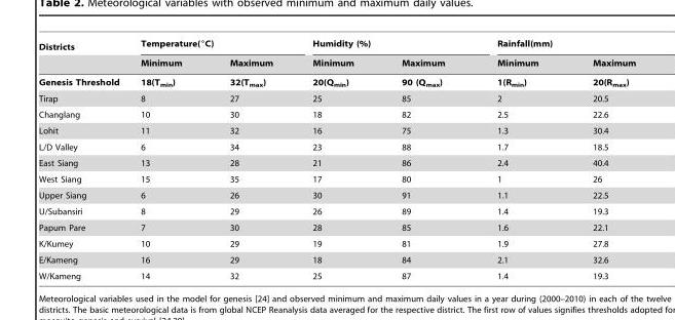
<table><thead><tr><td rowspan="2">Districts</td><td colspan="2">Temperature(°C)</td><td colspan="2">Humidity (%)</td><td colspan="2">Rainfall(mm)</td></tr><tr><td>Minimum</td><td>Maximum</td><td>Minimum</td><td>Maximum</td><td>Minimum</td><td>Maximum</td></tr></thead><tbody><tr><td>Genesis Threshold</td><td>18(T<sub>min</sub>)</td><td>32(T<sub>max</sub>)</td><td>20(Q<sub>min</sub>)</td><td>90 (Q<sub>max</sub>)</td><td>1(R<sub>min</sub>)</td><td>20(R<sub>max</sub>)</td></tr><tr><td>Tirap</td><td>8</td><td>27</td><td>25</td><td>85</td><td>2</td><td>20.5</td></tr><tr><td>Changlang</td><td>10</td><td>30</td><td>18</td><td>82</td><td>2.5</td><td>22.6</td></tr><tr><td>Lohit</td><td>11</td><td>32</td><td>16</td><td>75</td><td>1.3</td><td>30.4</td></tr><tr><td>L/D Valley</td><td>6</td><td>34</td><td>23</td><td>88</td><td>1.7</td><td>18.5</td></tr><tr><td>East Siang</td><td>13</td><td>28</td><td>21</td><td>86</td><td>2.4</td><td>40.4</td></tr><tr><td>West Siang</td><td>15</td><td>35</td><td>17</td><td>80</td><td>1</td><td>26</td></tr><tr><td>Upper Siang</td><td>6</td><td>26</td><td>30</td><td>91</td><td>1.1</td><td>22.5</td></tr><tr><td>U/Subansiri</td><td>8</td><td>29</td><td>26</td><td>89</td><td>1.4</td><td>19.3</td></tr><tr><td>Papum Pare</td><td>7</td><td>30</td><td>28</td><td>85</td><td>1.6</td><td>22.1</td></tr><tr><td>K/Kumey</td><td>10</td><td>29</td><td>19</td><td>81</td><td>1.9</td><td>27.8</td></tr><tr><td>E/Kameng</td><td>16</td><td>29</td><td>18</td><td>84</td><td>2.1</td><td>32.6</td></tr><tr><td>W/Kameng</td><td>14</td><td>32</td><td>25</td><td>87</td><td>1.4</td><td>19.3</td></tr></tbody></table>